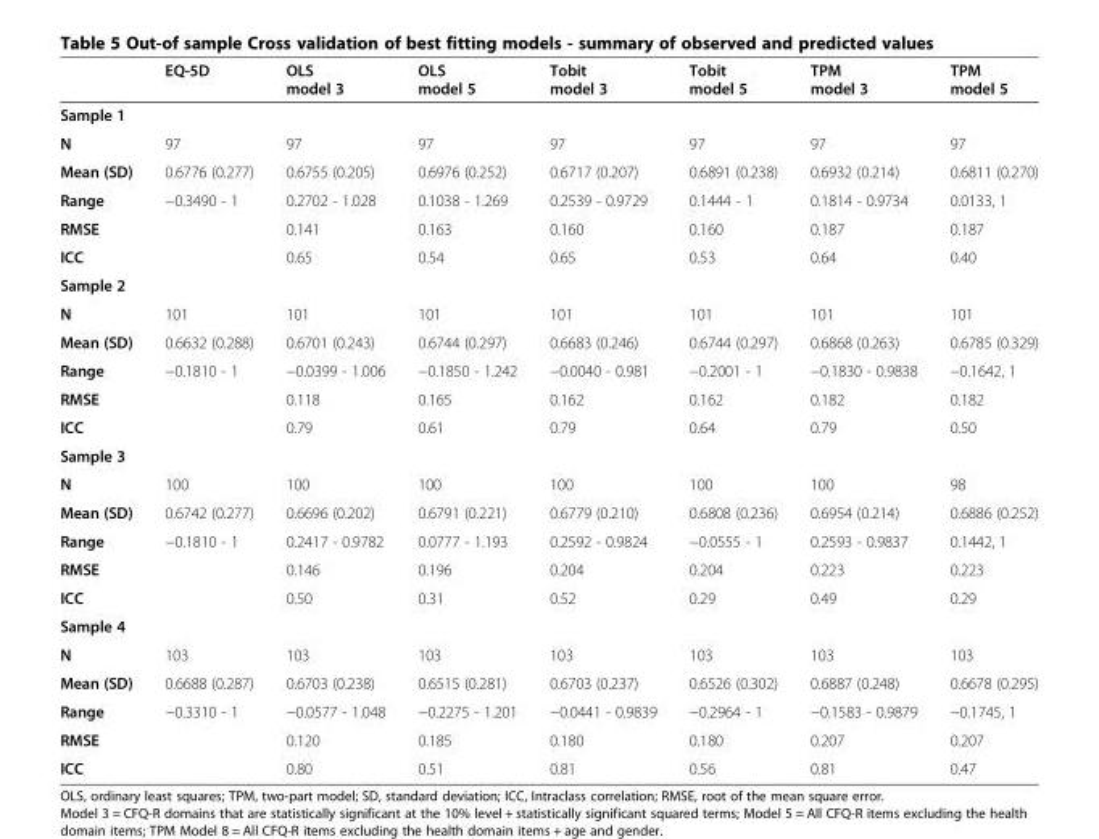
<table><thead><tr><td></td><td>EQ-5D</td><td>OLS model 3</td><td>OLS model 5</td><td>Tobit model 3</td><td>Tobit model 5</td><td>TPM model 3</td><td>TPM model 5</td></tr></thead><tbody><tr><td colspan="8">Sample 1</td></tr><tr><td>N</td><td>97</td><td>97</td><td>97</td><td>97</td><td>97</td><td>97</td><td>97</td></tr><tr><td>Mean (SD)</td><td>0.6776 (0.277)</td><td>0.6755 (0.205)</td><td>0.6976 (0.252)</td><td>0.6717 (0.207)</td><td>0.6891 (0.238)</td><td>0.6932 (0.214)</td><td>0.6811 (0.270)</td></tr><tr><td>Range</td><td>−0.3490 - 1</td><td>0.2702 - 1.028</td><td>0.1038 - 1.269</td><td>0.2539 - 0.9729</td><td>0.1444 - 1</td><td>0.1814 - 0.9734</td><td>0.0133, 1</td></tr><tr><td>RMSE</td><td></td><td>0.141</td><td>0.163</td><td>0.160</td><td>0.160</td><td>0.187</td><td>0.187</td></tr><tr><td>ICC</td><td></td><td>0.65</td><td>0.54</td><td>0.65</td><td>0.53</td><td>0.64</td><td>0.40</td></tr><tr><td colspan="8">Sample 2</td></tr><tr><td>N</td><td>101</td><td>101</td><td>101</td><td>101</td><td>101</td><td>101</td><td>101</td></tr><tr><td>Mean (SD)</td><td>0.6632 (0.288)</td><td>0.6701 (0.243)</td><td>0.6744 (0.297)</td><td>0.6683 (0.246)</td><td>0.6744 (0.297)</td><td>0.6868 (0.263)</td><td>0.6785 (0.329)</td></tr><tr><td>Range</td><td>−0.1810 - 1</td><td>−0.0399 - 1.006</td><td>−0.1850 - 1.242</td><td>−0.0040 - 0.981</td><td>−0.2001 - 1</td><td>−0.1830 - 0.9838</td><td>−0.1642, 1</td></tr><tr><td>RMSE</td><td></td><td>0.118</td><td>0.165</td><td>0.162</td><td>0.162</td><td>0.182</td><td>0.182</td></tr><tr><td>ICC</td><td></td><td>0.79</td><td>0.61</td><td>0.79</td><td>0.64</td><td>0.79</td><td>0.50</td></tr><tr><td colspan="8">Sample 3</td></tr><tr><td>N</td><td>100</td><td>100</td><td>100</td><td>100</td><td>100</td><td>100</td><td>98</td></tr><tr><td>Mean (SD)</td><td>0.6742 (0.277)</td><td>0.6696 (0.202)</td><td>0.6791 (0.221)</td><td>0.6779 (0.210)</td><td>0.6808 (0.236)</td><td>0.6954 (0.214)</td><td>0.6886 (0.252)</td></tr><tr><td>Range</td><td>−0.1810 - 1</td><td>0.2417 - 0.9782</td><td>0.0777 - 1.193</td><td>0.2592 - 0.9824</td><td>−0.0555 - 1</td><td>0.2593 - 0.9837</td><td>0.1442, 1</td></tr><tr><td>RMSE</td><td></td><td>0.146</td><td>0.196</td><td>0.204</td><td>0.204</td><td>0.223</td><td>0.223</td></tr><tr><td>ICC</td><td></td><td>0.50</td><td>0.31</td><td>0.52</td><td>0.29</td><td>0.49</td><td>0.29</td></tr><tr><td colspan="8">Sample 4</td></tr><tr><td>N</td><td>103</td><td>103</td><td>103</td><td>103</td><td>103</td><td>103</td><td>103</td></tr><tr><td>Mean (SD)</td><td>0.6688 (0.287)</td><td>0.6703 (0.238)</td><td>0.6515 (0.281)</td><td>0.6703 (0.237)</td><td>0.6526 (0.302)</td><td>0.6887 (0.248)</td><td>0.6678 (0.295)</td></tr><tr><td>Range</td><td>−0.3310 - 1</td><td>−0.0577 - 1.048</td><td>−0.2275 - 1.201</td><td>−0.0441 - 0.9839</td><td>−0.2964 - 1</td><td>−0.1583 - 0.9879</td><td>−0.1745, 1</td></tr><tr><td>RMSE</td><td></td><td>0.120</td><td>0.185</td><td>0.180</td><td>0.180</td><td>0.207</td><td>0.207</td></tr><tr><td>ICC</td><td></td><td>0.80</td><td>0.51</td><td>0.81</td><td>0.56</td><td>0.81</td><td>0.47</td></tr></tbody></table>